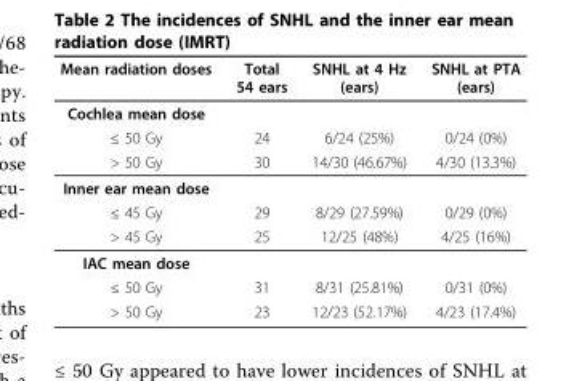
<table><thead><tr><td>Mean radiation doses</td><td>Total 54 ears</td><td>SNHL at 4 Hz (ears)</td><td>SNHL at PTA (ears)</td></tr></thead><tbody><tr><td colspan="4">Cochlea mean dose</td></tr><tr><td>≤ 50 Gy</td><td>24</td><td>6/24 (25%)</td><td>0/24 (0%)</td></tr><tr><td>&gt; 50 Gy</td><td>30</td><td>14/30 (46.67%)</td><td>4/30 (13.3%)</td></tr><tr><td colspan="4">Inner ear mean dose</td></tr><tr><td>≤ 45 Gy</td><td>29</td><td>8/29 (27.59%)</td><td>0/29 (0%)</td></tr><tr><td>&gt; 45 Gy</td><td>25</td><td>12/25 (48%)</td><td>4/25 (16%)</td></tr><tr><td colspan="4">IAC mean dose</td></tr><tr><td>≤ 50 Gy</td><td>31</td><td>8/31 (25.81%)</td><td>0/31 (0%)</td></tr><tr><td>&gt; 50 Gy</td><td>23</td><td>12/23 (52.17%)</td><td>4/23 (17.4%)</td></tr></tbody></table>